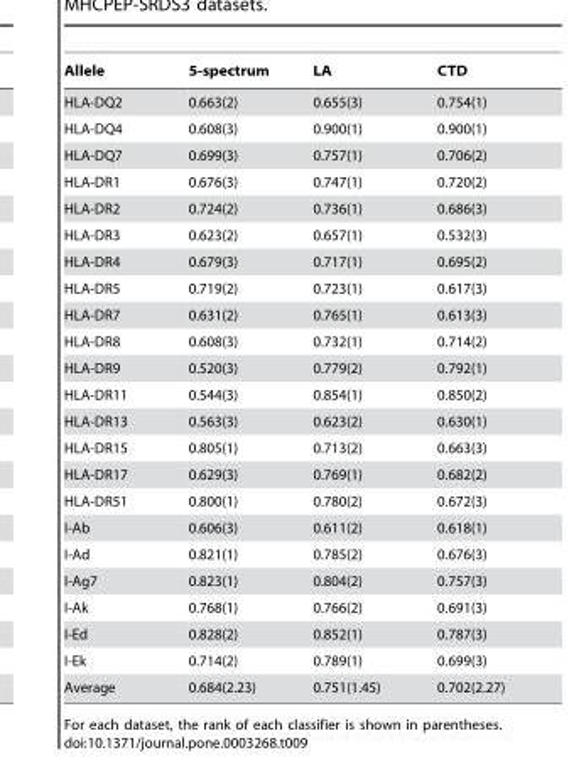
<table><thead><tr><td>Allele</td><td>5-spectrum</td><td>LA</td><td>CTD</td></tr></thead><tbody><tr><td>HLA-DQ2</td><td>0.663(2)</td><td>0.655(3)</td><td>0.754(1)</td></tr><tr><td>HLA-DQ4</td><td>0.608(3)</td><td>0.900(1)</td><td>0.900(1)</td></tr><tr><td>HLA-DQ7</td><td>0.699(3)</td><td>0.757(1)</td><td>0.706(2)</td></tr><tr><td>HLA-DR1</td><td>0.676(3)</td><td>0.747(1)</td><td>0.720(2)</td></tr><tr><td>HLA-DR2</td><td>0.724(2)</td><td>0.736(1)</td><td>0.686(3)</td></tr><tr><td>HLA-DR3</td><td>0.623(2)</td><td>0.657(1)</td><td>0.532(3)</td></tr><tr><td>HLA-DR4</td><td>0.679(3)</td><td>0.717(1)</td><td>0.695(2)</td></tr><tr><td>HLA-DR5</td><td>0.719(2)</td><td>0.723(1)</td><td>0.617(3)</td></tr><tr><td>HLA-DR7</td><td>0.631(2)</td><td>0.765(1)</td><td>0.613(3)</td></tr><tr><td>HLA-DR8</td><td>0.608(3)</td><td>0.732(1)</td><td>0.714(2)</td></tr><tr><td>HLA-DR9</td><td>0.520(3)</td><td>0.779(2)</td><td>0.792(1)</td></tr><tr><td>HLA-DR11</td><td>0.544(3)</td><td>0.854(1)</td><td>0.850(2)</td></tr><tr><td>HLA-DR13</td><td>0.563(3)</td><td>0.623(2)</td><td>0.630(1)</td></tr><tr><td>HLA-DR15</td><td>0.805(1)</td><td>0.713(2)</td><td>0.663(3)</td></tr><tr><td>HLA-DR17</td><td>0.629(3)</td><td>0.769(1)</td><td>0.682(2)</td></tr><tr><td>HLA-DR51</td><td>0.800(1)</td><td>0.780(2)</td><td>0.672(3)</td></tr><tr><td>I-Ab</td><td>0.606(3)</td><td>0.611(2)</td><td>0.618(1)</td></tr><tr><td>I-Ad</td><td>0.821(1)</td><td>0.785(2)</td><td>0.676(3)</td></tr><tr><td>I-Ag7</td><td>0.823(1)</td><td>0.804(2)</td><td>0.757(3)</td></tr><tr><td>I-Ak</td><td>0.768(1)</td><td>0.766(2)</td><td>0.691(3)</td></tr><tr><td>I-Ed</td><td>0.828(2)</td><td>0.852(1)</td><td>0.787(3)</td></tr><tr><td>I-Ek</td><td>0.714(2)</td><td>0.789(1)</td><td>0.699(3)</td></tr><tr><td>Average</td><td>0.684(2.23)</td><td>0.751(1.45)</td><td>0.702(2.27)</td></tr></tbody></table>